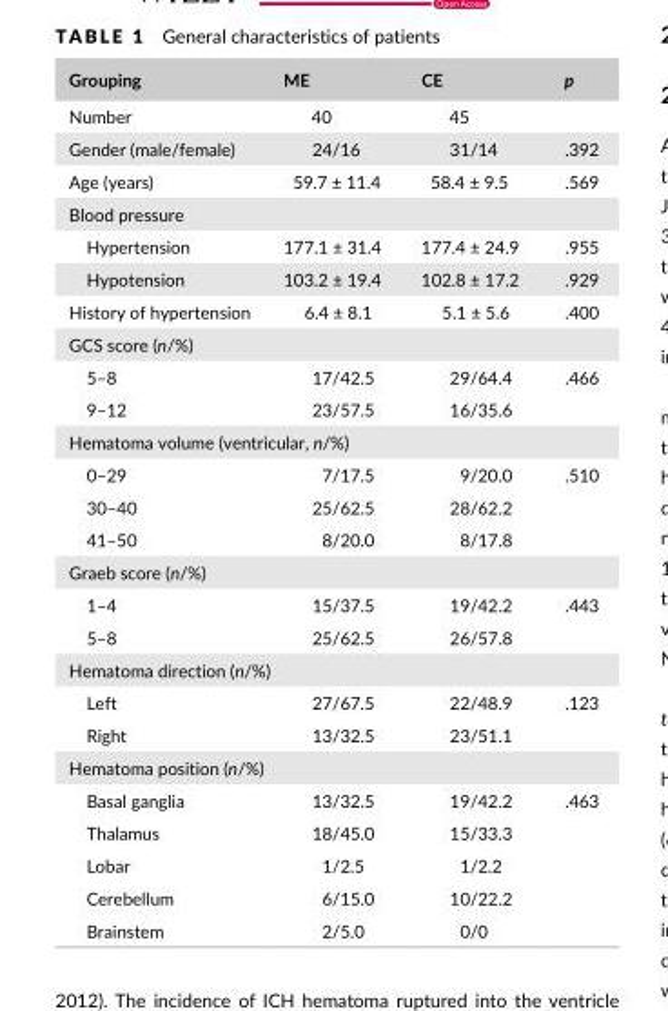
<table><thead><tr><td>Grouping</td><td>ME</td><td>CE</td><td>p</td></tr></thead><tbody><tr><td>Number</td><td>40</td><td>45</td><td></td></tr><tr><td>Gender (male/female)</td><td>24/16</td><td>31/14</td><td>.392</td></tr><tr><td>Age (years)</td><td>59.7 ± 11.4</td><td>58.4 ± 9.5</td><td>.569</td></tr><tr><td colspan="4">Blood pressure</td></tr><tr><td>Hypertension</td><td>177.1 ± 31.4</td><td>177.4 ± 24.9</td><td>.955</td></tr><tr><td>Hypotension</td><td>103.2 ± 19.4</td><td>102.8 ± 17.2</td><td>.929</td></tr><tr><td>History of hypertension</td><td>6.4 ± 8.1</td><td>5.1 ± 5.6</td><td>.400</td></tr><tr><td colspan="4">GCS score (n/%)</td></tr><tr><td>5–8</td><td>17/42.5</td><td>29/64.4</td><td rowspan="2">.466</td></tr><tr><td>9–12</td><td>23/57.5</td><td>16/35.6</td></tr><tr><td colspan="4">Hematoma volume (ventricular, n/%)</td></tr><tr><td>0–29</td><td>7/17.5</td><td>9/20.0</td><td rowspan="3">.510</td></tr><tr><td>30–40</td><td>25/62.5</td><td>28/62.2</td></tr><tr><td>41–50</td><td>8/20.0</td><td>8/17.8</td></tr><tr><td colspan="4">Graeb score (n/%)</td></tr><tr><td>1–4</td><td>15/37.5</td><td>19/42.2</td><td>.443</td></tr><tr><td>5–8</td><td>25/62.5</td><td>26/57.8</td><td></td></tr><tr><td colspan="4">Hematoma direction (n/%)</td></tr><tr><td>Left</td><td>27/67.5</td><td>22/48.9</td><td rowspan="2">.123</td></tr><tr><td>Right</td><td>13/32.5</td><td>23/51.1</td></tr><tr><td colspan="4">Hematoma position (n/%)</td></tr><tr><td>Basal ganglia</td><td>13/32.5</td><td>19/42.2</td><td rowspan="5">.463</td></tr><tr><td>Thalamus</td><td>18/45.0</td><td>15/33.3</td></tr><tr><td>Lobar</td><td>1/2.5</td><td>1/2.2</td></tr><tr><td>Cerebellum</td><td>6/15.0</td><td>10/22.2</td></tr><tr><td>Brainstem</td><td>2/5.0</td><td>0/0</td></tr></tbody></table>